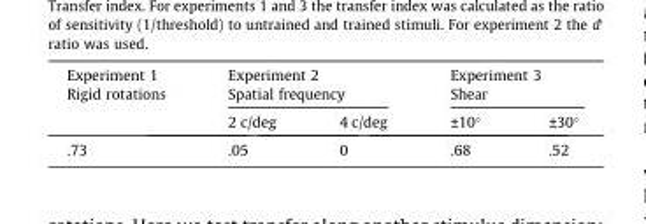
<table><thead><tr><td rowspan="2">Experiment 1 Rigid rotations</td><td colspan="2">Experiment 2 Spatial frequency</td><td colspan="2">Experiment 3 Shear</td></tr><tr><td>2 c/deg</td><td>4 c/deg</td><td>±10°</td><td>±30°</td></tr></thead><tbody><tr><td>.73</td><td>.05</td><td>0</td><td>.68</td><td>.52</td></tr></tbody></table>